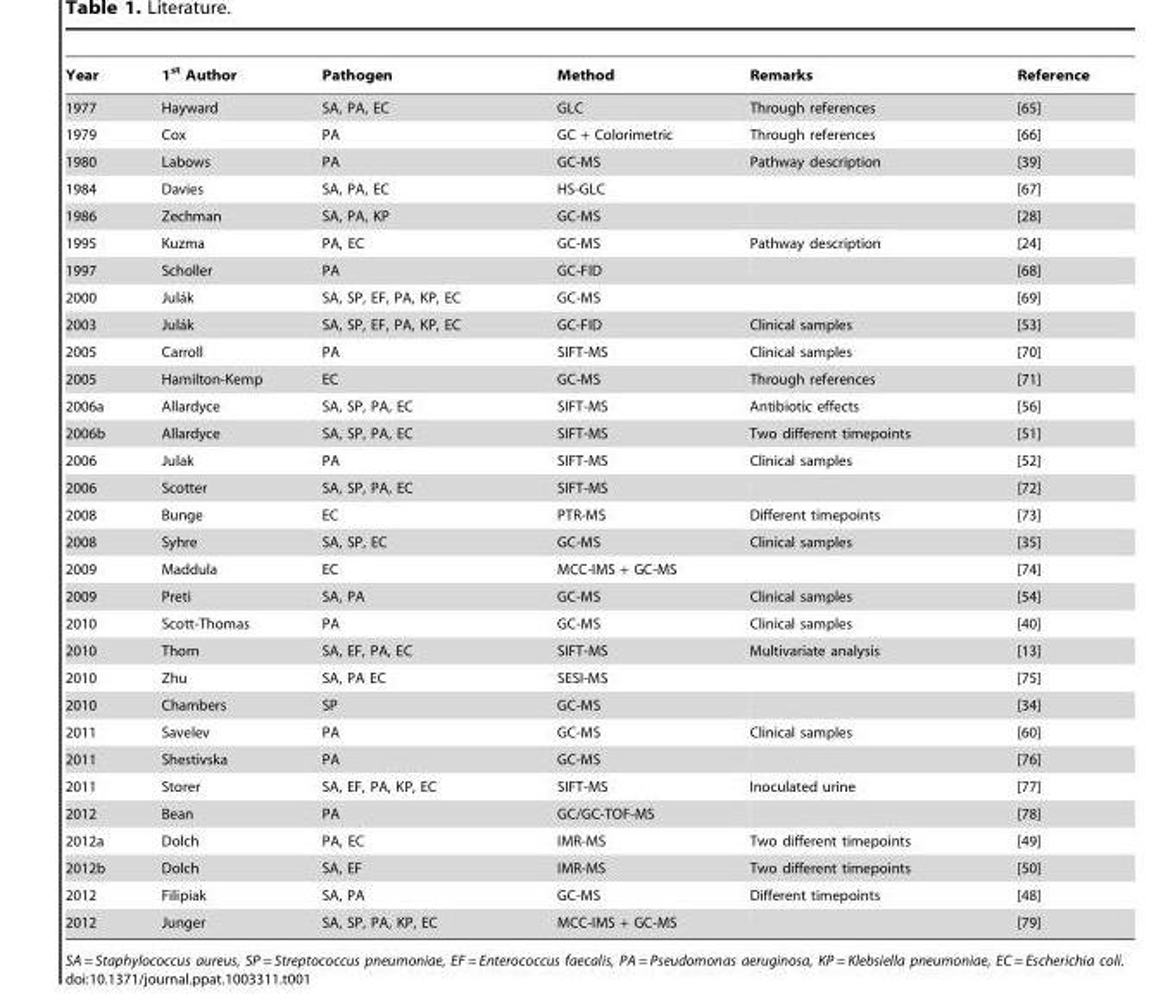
<table><thead><tr><td>Year</td><td>1<sup>st</sup> Author</td><td>Pathogen</td><td>Method</td><td>Remarks</td><td>Reference</td></tr></thead><tbody><tr><td>1977</td><td>Hayward</td><td>SA, PA, EC</td><td>GLC</td><td>Through references</td><td>[65]</td></tr><tr><td>1979</td><td>Cox</td><td>PA</td><td>GC + Colorimetric</td><td>Through references</td><td>[66]</td></tr><tr><td>1980</td><td>Labows</td><td>PA</td><td>GC-MS</td><td>Pathway description</td><td>[39]</td></tr><tr><td>1984</td><td>Davies</td><td>SA, PA, EC</td><td>HS-GLC</td><td></td><td>[67]</td></tr><tr><td>1986</td><td>Zechman</td><td>SA, PA, KP</td><td>GC-MS</td><td></td><td>[28]</td></tr><tr><td>1995</td><td>Kuzma</td><td>PA, EC</td><td>GC-MS</td><td>Pathway description</td><td>[24]</td></tr><tr><td>1997</td><td>Scholler</td><td>PA</td><td>GC-FID</td><td></td><td>[68]</td></tr><tr><td>2000</td><td>Jula´k</td><td>SA, SP, EF, PA, KP, EC</td><td>GC-MS</td><td></td><td>[69]</td></tr><tr><td>2003</td><td>Jula´k</td><td>SA, SP, EF, PA, KP, EC</td><td>GC-FID</td><td>Clinical samples</td><td>[53]</td></tr><tr><td>2005</td><td>Carroll</td><td>PA</td><td>SIFT-MS</td><td>Clinical samples</td><td>[70]</td></tr><tr><td>2005</td><td>Hamilton-Kemp</td><td>EC</td><td>GC-MS</td><td>Through references</td><td>[71]</td></tr><tr><td>2006a</td><td>Allardyce</td><td>SA, SP, PA, EC</td><td>SIFT-MS</td><td>Antibiotic effects</td><td>[56]</td></tr><tr><td>2006b</td><td>Allardyce</td><td>SA, SP, PA, EC</td><td>SIFT-MS</td><td>Two different timepoints</td><td>[51]</td></tr><tr><td>2006</td><td>Julak</td><td>PA</td><td>SIFT-MS</td><td>Clinical samples</td><td>[52]</td></tr><tr><td>2006</td><td>Scotter</td><td>SA, SP, PA, EC</td><td>SIFT-MS</td><td></td><td>[72]</td></tr><tr><td>2008</td><td>Bunge</td><td>EC</td><td>PTR-MS</td><td>Different timepoints</td><td>[73]</td></tr><tr><td>2008</td><td>Syhre</td><td>SA, SP, EC</td><td>GC-MS</td><td>Clinical samples</td><td>[35]</td></tr><tr><td>2009</td><td>Maddula</td><td>EC</td><td>MCC-IMS + GC-MS</td><td></td><td>[74]</td></tr><tr><td>2009</td><td>Preti</td><td>SA, PA</td><td>GC-MS</td><td>Clinical samples</td><td>[54]</td></tr><tr><td>2010</td><td>Scott-Thomas</td><td>PA</td><td>GC-MS</td><td>Clinical samples</td><td>[40]</td></tr><tr><td>2010</td><td>Thorn</td><td>SA, EF, PA, EC</td><td>SIFT-MS</td><td>Multivariate analysis</td><td>[13]</td></tr><tr><td>2010</td><td>Zhu</td><td>SA, PA EC</td><td>SESI-MS</td><td></td><td>[75]</td></tr><tr><td>2010</td><td>Chambers</td><td>SP</td><td>GC-MS</td><td></td><td>[34]</td></tr><tr><td>2011</td><td>Savelev</td><td>PA</td><td>GC-MS</td><td>Clinical samples</td><td>[60]</td></tr><tr><td>2011</td><td>Shestivska</td><td>PA</td><td>GC-MS</td><td></td><td>[76]</td></tr><tr><td>2011</td><td>Storer</td><td>SA, EF, PA, KP, EC</td><td>SIFT-MS</td><td>Inoculated urine</td><td>[77]</td></tr><tr><td>2012</td><td>Bean</td><td>PA</td><td>GC/GC-TOF-MS</td><td></td><td>[78]</td></tr><tr><td>2012a</td><td>Dolch</td><td>PA, EC</td><td>IMR-MS</td><td>Two different timepoints</td><td>[49]</td></tr><tr><td>2012b</td><td>Dolch</td><td>SA, EF</td><td>IMR-MS</td><td>Two different timepoints</td><td>[50]</td></tr><tr><td>2012</td><td>Filipiak</td><td>SA, PA</td><td>GC-MS</td><td>Different timepoints</td><td>[48]</td></tr><tr><td>2012</td><td>Junger</td><td>SA, SP, PA, KP, EC</td><td>MCC-IMS + GC-MS</td><td></td><td>[79]</td></tr></tbody></table>